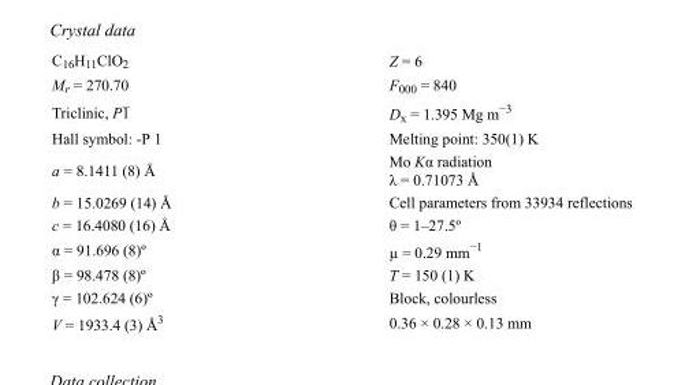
<table><tbody><tr><td>C<sub>16</sub>H<sub>11</sub>ClO<sub>2</sub></td><td>Z = 6</td></tr><tr><td>M<sub>r</sub> = 270.70</td><td>F000 = 840</td></tr><tr><td>Triclinic, P1</td><td>D<sub>x</sub> = 1.395 Mg m<sup>−3</sup></td></tr><tr><td>Hall symbol: -P 1</td><td>Melting point: 350(1) K</td></tr><tr><td>a = 8.1411 (8) Å</td><td>Mo Kα radiation λ = 0.71073 Å</td></tr><tr><td>b = 15.0269 (14) Å</td><td>Cell parameters from 33934 reflections</td></tr><tr><td>c = 16.4080 (16) Å</td><td>θ = 1–27.5º</td></tr><tr><td>α = 91.696 (8)º</td><td>µ = 0.29 mm<sup>−1</sup></td></tr><tr><td>β = 98.478 (8)º</td><td>T = 150 (1) K</td></tr><tr><td>γ = 102.624 (6)º</td><td>Block, colourless</td></tr><tr><td>V = 1933.4 (3) Å<sup>3</sup></td><td>0.36 × 0.28 × 0.13 mm</td></tr></tbody></table>